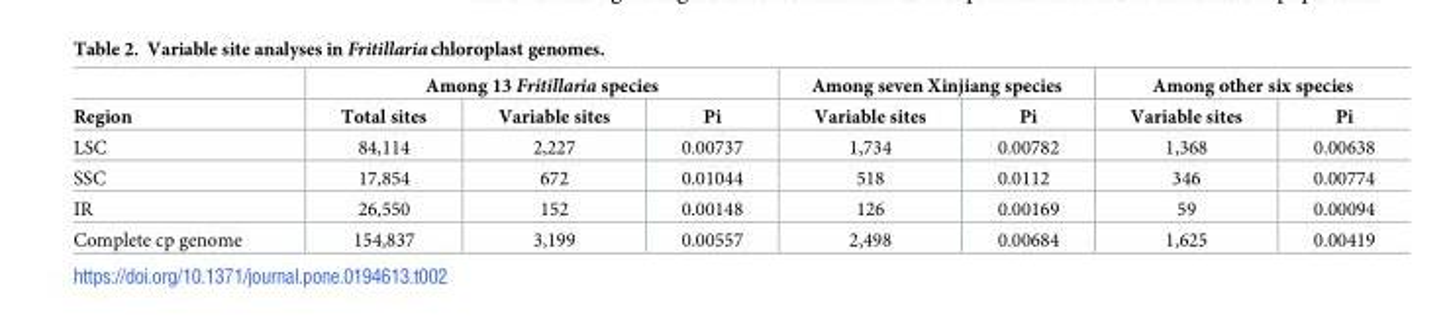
<table><thead><tr><td rowspan="2">Region</td><td colspan="3">Among 13 Fritillaria species</td><td colspan="2">Among seven Xinjiang species</td><td colspan="2">Among other six species</td></tr><tr><td>Total sites</td><td>Variable sites</td><td>Pi</td><td>Variable sites</td><td>Pi</td><td>Variable sites</td><td>Pi</td></tr></thead><tbody><tr><td>LSC</td><td>84,114</td><td>2,227</td><td>0.00737</td><td>1,734</td><td>0.00782</td><td>1,368</td><td>0.00638</td></tr><tr><td>SSC</td><td>17,854</td><td>672</td><td>0.01044</td><td>518</td><td>0.0112</td><td>346</td><td>0.00774</td></tr><tr><td>IR</td><td>26,550</td><td>152</td><td>0.00148</td><td>126</td><td>0.00169</td><td>59</td><td>0.00094</td></tr><tr><td>Complete cp genome</td><td>154,837</td><td>3,199</td><td>0.00557</td><td>2,498</td><td>0.00684</td><td>1,625</td><td>0.00419</td></tr></tbody></table>